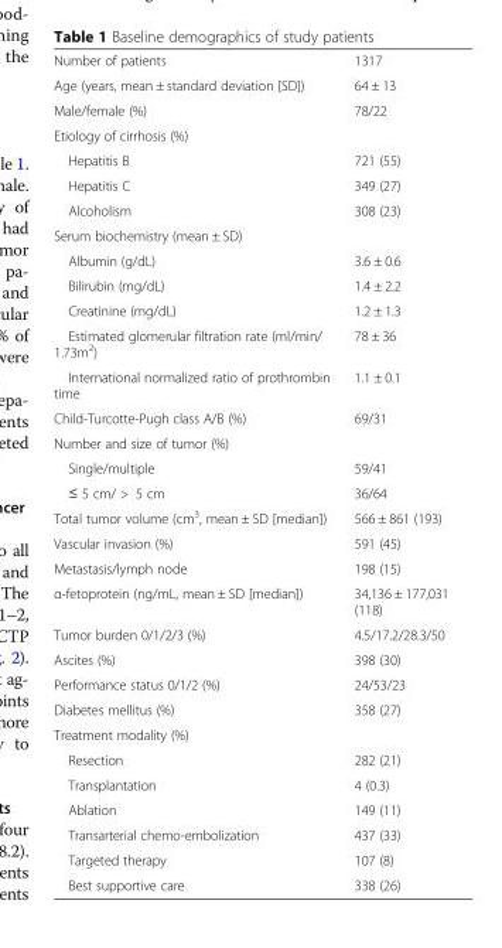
<table><tbody><tr><td>Number of patients</td><td>1317</td></tr><tr><td>Age (years, mean ± standard deviation [SD])</td><td>64 ± 13</td></tr><tr><td>Male/female (%)</td><td>78/22</td></tr><tr><td colspan="2">Etiology of cirrhosis (%)</td></tr><tr><td>Hepatitis B</td><td>721 (55)</td></tr><tr><td>Hepatitis C</td><td>349 (27)</td></tr><tr><td>Alcoholism</td><td>308 (23)</td></tr><tr><td colspan="2">Serum biochemistry (mean ± SD)</td></tr><tr><td>Albumin (g/dL)</td><td>3.6 ± 0.6</td></tr><tr><td>Bilirubin (mg/dL)</td><td>1.4 ± 2.2</td></tr><tr><td>Creatinine (mg/dL)</td><td>1.2 ± 1.3</td></tr><tr><td>Estimated glomerular filtration rate (ml/min/ 1.73m<sup>2</sup>)</td><td>78 ± 36</td></tr><tr><td>International normalized ratio of prothrombin time</td><td>1.1 ± 0.1</td></tr><tr><td>Child-Turcotte-Pugh class A/B (%)</td><td>69/31</td></tr><tr><td colspan="2">Number and size of tumor (%)</td></tr><tr><td>Single/multiple</td><td>59/41</td></tr><tr><td>≤ 5 cm/ &gt; 5 cm</td><td>36/64</td></tr><tr><td>Total tumor volume (cm<sup>3</sup>, mean ± SD [median])</td><td>566 ± 861 (193)</td></tr><tr><td>Vascular invasion (%)</td><td>591 (45)</td></tr><tr><td>Metastasis/lymph node</td><td>198 (15)</td></tr><tr><td>α-fetoprotein (ng/mL, mean ± SD [median])</td><td>34,136 ± 177,031 (118)</td></tr><tr><td>Tumor burden 0/1/2/3 (%)</td><td>4.5/17.2/28.3/50</td></tr><tr><td>Ascites (%)</td><td>398 (30)</td></tr><tr><td>Performance status 0/1/2 (%)</td><td>24/53/23</td></tr><tr><td>Diabetes mellitus (%)</td><td>358 (27)</td></tr><tr><td colspan="2">Treatment modality (%)</td></tr><tr><td>Resection</td><td>282 (21)</td></tr><tr><td>Transplantation</td><td>4 (0.3)</td></tr><tr><td>Ablation</td><td>149 (11)</td></tr><tr><td>Transarterial chemo-embolization</td><td>437 (33)</td></tr><tr><td>Targeted therapy</td><td>107 (8)</td></tr><tr><td>Best supportive care</td><td>338 (26)</td></tr></tbody></table>